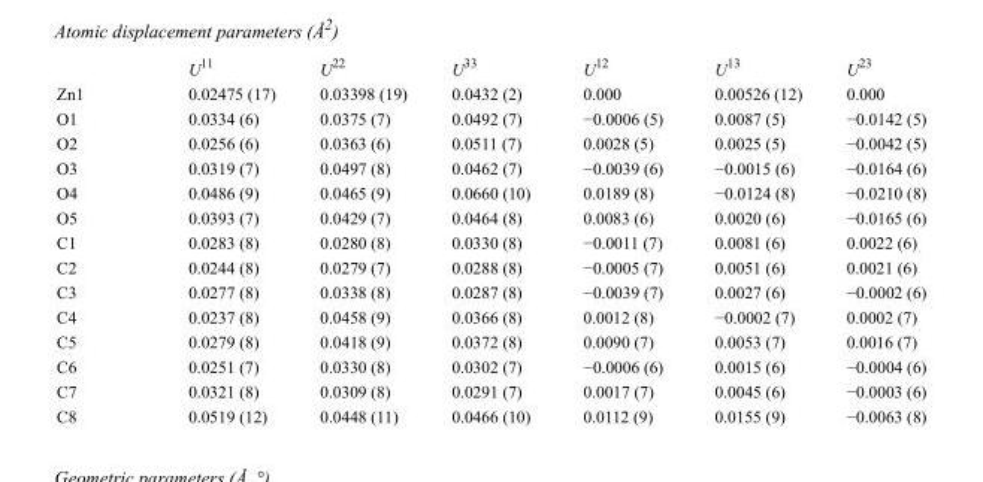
<table><thead><tr><td></td><td>U<sup>11</sup></td><td>U<sup>22</sup></td><td>U<sup>33</sup></td><td>U<sup>12</sup></td><td>U<sup>13</sup></td><td>U<sup>23</sup></td></tr></thead><tbody><tr><td>Zn1</td><td>0.02475 (17)</td><td>0.03398 (19)</td><td>0.0432 (2)</td><td>0.000</td><td>0.00526 (12)</td><td>0.000</td></tr><tr><td>O1</td><td>0.0334 (6)</td><td>0.0375 (7)</td><td>0.0492 (7)</td><td>−0.0006 (5)</td><td>0.0087 (5)</td><td>−0.0142 (5)</td></tr><tr><td>O2</td><td>0.0256 (6)</td><td>0.0363 (6)</td><td>0.0511 (7)</td><td>0.0028 (5)</td><td>0.0025 (5)</td><td>−0.0042 (5)</td></tr><tr><td>O3</td><td>0.0319 (7)</td><td>0.0497 (8)</td><td>0.0462 (7)</td><td>−0.0039 (6)</td><td>−0.0015 (6)</td><td>−0.0164 (6)</td></tr><tr><td>O4</td><td>0.0486 (9)</td><td>0.0465 (9)</td><td>0.0660 (10)</td><td>0.0189 (8)</td><td>−0.0124 (8)</td><td>−0.0210 (8)</td></tr><tr><td>O5</td><td>0.0393 (7)</td><td>0.0429 (7)</td><td>0.0464 (8)</td><td>0.0083 (6)</td><td>0.0020 (6)</td><td>−0.0165 (6)</td></tr><tr><td>C1</td><td>0.0283 (8)</td><td>0.0280 (8)</td><td>0.0330 (8)</td><td>−0.0011 (7)</td><td>0.0081 (6)</td><td>0.0022 (6)</td></tr><tr><td>C2</td><td>0.0244 (8)</td><td>0.0279 (7)</td><td>0.0288 (8)</td><td>−0.0005 (7)</td><td>0.0051 (6)</td><td>0.0021 (6)</td></tr><tr><td>C3</td><td>0.0277 (8)</td><td>0.0338 (8)</td><td>0.0287 (8)</td><td>−0.0039 (7)</td><td>0.0027 (6)</td><td>−0.0002 (6)</td></tr><tr><td>C4</td><td>0.0237 (8)</td><td>0.0458 (9)</td><td>0.0366 (8)</td><td>0.0012 (8)</td><td>−0.0002 (7)</td><td>0.0002 (7)</td></tr><tr><td>C5</td><td>0.0279 (8)</td><td>0.0418 (9)</td><td>0.0372 (8)</td><td>0.0090 (7)</td><td>0.0053 (7)</td><td>0.0016 (7)</td></tr><tr><td>C6</td><td>0.0251 (7)</td><td>0.0330 (8)</td><td>0.0302 (7)</td><td>−0.0006 (6)</td><td>0.0015 (6)</td><td>−0.0004 (6)</td></tr><tr><td>C7</td><td>0.0321 (8)</td><td>0.0309 (8)</td><td>0.0291 (7)</td><td>0.0017 (7)</td><td>0.0045 (6)</td><td>−0.0003 (6)</td></tr><tr><td>C8</td><td>0.0519 (12)</td><td>0.0448 (11)</td><td>0.0466 (10)</td><td>0.0112 (9)</td><td>0.0155 (9)</td><td>−0.0063 (8)</td></tr></tbody></table>